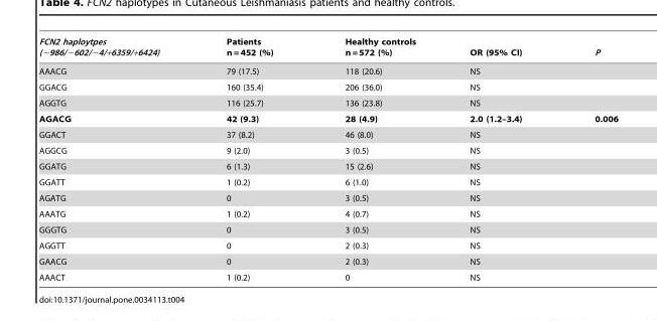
<table><thead><tr><td>FCN2 haploytpes (−986/−602/−4/+6359/+6424)</td><td>Patients n = 452 (%)</td><td>Healthy controls n = 572 (%)</td><td>OR (95% CI)</td><td>P</td></tr></thead><tbody><tr><td>AAACG</td><td>79 (17.5)</td><td>118 (20.6)</td><td colspan="2">NS</td></tr><tr><td>GGACG</td><td>160 (35.4)</td><td>206 (36.0)</td><td colspan="2">NS</td></tr><tr><td>AGGTG</td><td>116 (25.7)</td><td>136 (23.8)</td><td colspan="2">NS</td></tr><tr><td>AGACG</td><td>42 (9.3)</td><td>28 (4.9)</td><td>2.0 (1.2–3.4)</td><td>0.006</td></tr><tr><td>GGACT</td><td>37 (8.2)</td><td>46 (8.0)</td><td colspan="2">NS</td></tr><tr><td>AGGCG</td><td>9 (2.0)</td><td>3 (0.5)</td><td colspan="2">NS</td></tr><tr><td>GGATG</td><td>6 (1.3)</td><td>15 (2.6)</td><td colspan="2">NS</td></tr><tr><td>GGATT</td><td>1 (0.2)</td><td>6 (1.0)</td><td colspan="2">NS</td></tr><tr><td>AGATG</td><td>0</td><td>3 (0.5)</td><td colspan="2">NS</td></tr><tr><td>AAATG</td><td>1 (0.2)</td><td>4 (0.7)</td><td colspan="2">NS</td></tr><tr><td>GGGTG</td><td>0</td><td>3 (0.5)</td><td colspan="2">NS</td></tr><tr><td>AGGTT</td><td>0</td><td>2 (0.3)</td><td colspan="2">NS</td></tr><tr><td>GAACG</td><td>0</td><td>2 (0.3)</td><td colspan="2">NS</td></tr><tr><td>AAACT</td><td>1 (0.2)</td><td>0</td><td colspan="2">NS</td></tr></tbody></table>